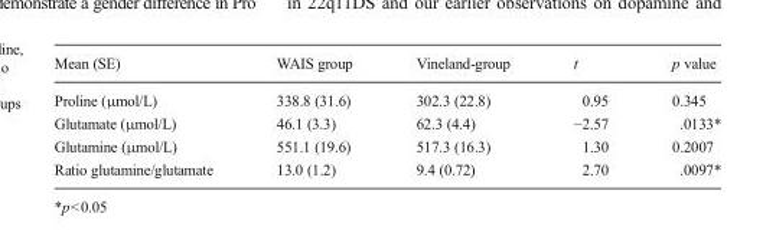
<table><thead><tr><td>Mean (SE)</td><td>WAIS group</td><td>Vineland-group</td><td>t</td><td>p value</td></tr></thead><tbody><tr><td>Proline (μmol/L)</td><td>338.8 (31.6)</td><td>302.3 (22.8)</td><td>0.95</td><td>0.345</td></tr><tr><td>Glutamate (μmol/L)</td><td>46.1 (3.3)</td><td>62.3 (4.4)</td><td>−2.57</td><td>.0133*</td></tr><tr><td>Glutamine (μmol/L)</td><td>551.1 (19.6)</td><td>517.3 (16.3)</td><td>1.30</td><td>0.2007</td></tr><tr><td>Ratio glutamine/glutamate</td><td>13.0 (1.2)</td><td>9.4 (0.72)</td><td>2.70</td><td>.0097*</td></tr></tbody></table>